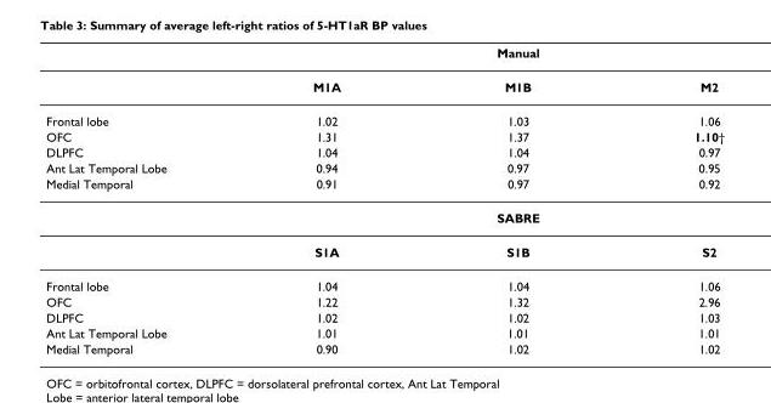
<table><thead><tr><td rowspan="2"></td><td colspan="3">Manual</td></tr><tr><td>M1A</td><td>M1B</td><td>M2</td></tr></thead><tbody><tr><td>Frontal lobe</td><td>1.02</td><td>1.03</td><td>1.06</td></tr><tr><td>OFC</td><td>1.31</td><td>1.37</td><td>1.10†</td></tr><tr><td>DLPFC</td><td>1.04</td><td>1.04</td><td>0.97</td></tr><tr><td>Ant Lat Temporal Lobe</td><td>0.94</td><td>0.97</td><td>0.95</td></tr><tr><td rowspan="3">Medial Temporal</td><td>0.91</td><td>0.97</td><td>0.92</td></tr><tr><td colspan="3">SABRE</td></tr><tr><td>S1A</td><td>S1B</td><td>S2</td></tr><tr><td>Frontal lobe</td><td>1.04</td><td>1.04</td><td>1.06</td></tr><tr><td>OFC</td><td>1.22</td><td>1.32</td><td>2.96</td></tr><tr><td>DLPFC</td><td>1.02</td><td>1.02</td><td>1.03</td></tr><tr><td>Ant Lat Temporal Lobe</td><td>1.01</td><td>1.01</td><td>1.01</td></tr><tr><td>Medial Temporal</td><td>0.90</td><td>1.02</td><td>1.02</td></tr></tbody></table>